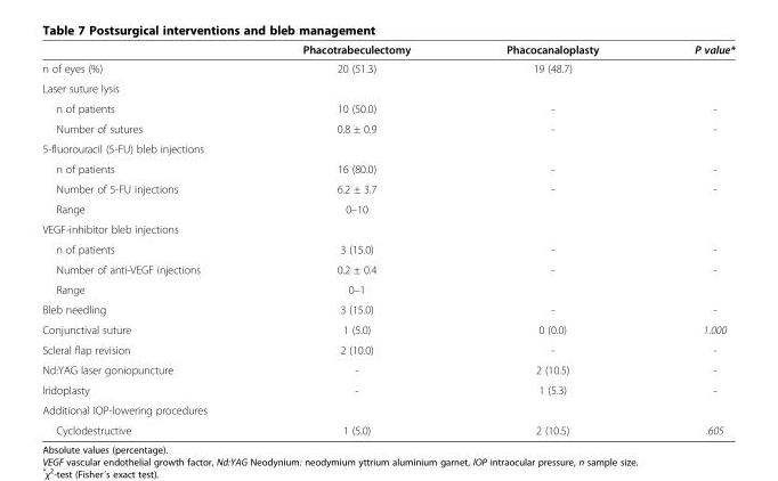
<table><thead><tr><td></td><td>Phacotrabeculectomy</td><td>Phacocanaloplasty</td><td>P value*</td></tr></thead><tbody><tr><td>n of eyes (%)</td><td>20 (51.3)</td><td>19 (48.7)</td><td></td></tr><tr><td colspan="4">Laser suture lysis</td></tr><tr><td>n of patients</td><td>10 (50.0)</td><td>-</td><td>-</td></tr><tr><td>Number of sutures</td><td>0.8 ± 0.9</td><td>-</td><td>-</td></tr><tr><td colspan="4">5-fluorouracil (5-FU) bleb injections</td></tr><tr><td>n of patients</td><td>16 (80.0)</td><td>-</td><td>-</td></tr><tr><td>Number of 5-FU injections</td><td>6.2 ± 3.7</td><td>-</td><td>-</td></tr><tr><td>Range</td><td>0–10</td><td></td><td></td></tr><tr><td colspan="4">VEGF-inhibitor bleb injections</td></tr><tr><td>n of patients</td><td>3 (15.0)</td><td>-</td><td>-</td></tr><tr><td>Number of anti-VEGF injections</td><td>0.2 ± 0.4</td><td>-</td><td>-</td></tr><tr><td>Range</td><td>0–1</td><td></td><td></td></tr><tr><td>Bleb needling</td><td>3 (15.0)</td><td>-</td><td>-</td></tr><tr><td>Conjunctival suture</td><td>1 (5.0)</td><td>0 (0.0)</td><td>1.000</td></tr><tr><td>Scleral flap revision</td><td>2 (10.0)</td><td>-</td><td>-</td></tr><tr><td>Nd:YAG laser goniopuncture</td><td>-</td><td>2 (10.5)</td><td>-</td></tr><tr><td>Iridoplasty</td><td>-</td><td>1 (5.3)</td><td>-</td></tr><tr><td colspan="4">Additional IOP-lowering procedures</td></tr><tr><td>Cyclodestructive</td><td>1 (5.0)</td><td>2 (10.5)</td><td>.605</td></tr></tbody></table>